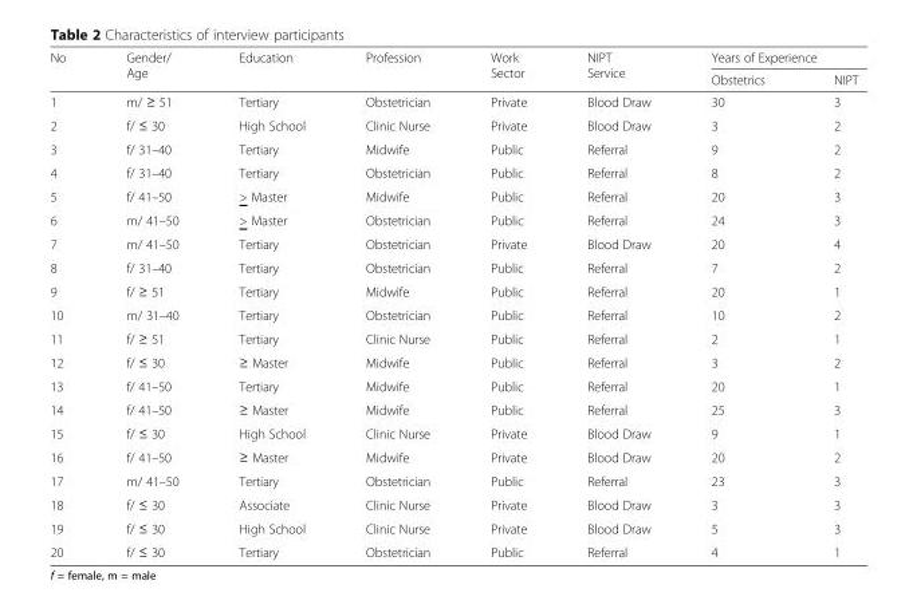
<table><thead><tr><td rowspan="2">No</td><td rowspan="2">Gender/ Age</td><td rowspan="2">Education</td><td rowspan="2">Profession</td><td rowspan="2">Work Sector</td><td rowspan="2">NIPT Service</td><td colspan="2">Years of Experience</td></tr><tr><td>Obstetrics</td><td>NIPT</td></tr></thead><tbody><tr><td>1</td><td>m/ ≥ 51</td><td>Tertiary</td><td>Obstetrician</td><td>Private</td><td>Blood Draw</td><td>30</td><td>3</td></tr><tr><td>2</td><td>f/ ≤ 30</td><td>High School</td><td>Clinic Nurse</td><td>Private</td><td>Blood Draw</td><td>3</td><td>2</td></tr><tr><td>3</td><td>f/ 31–40</td><td>Tertiary</td><td>Midwife</td><td>Public</td><td>Referral</td><td>9</td><td>2</td></tr><tr><td>4</td><td>f/ 31–40</td><td>Tertiary</td><td>Obstetrician</td><td>Public</td><td>Referral</td><td>8</td><td>2</td></tr><tr><td>5</td><td>f/ 41–50</td><td>&gt; Master</td><td>Midwife</td><td>Public</td><td>Referral</td><td>20</td><td>3</td></tr><tr><td>6</td><td>m/ 41–50</td><td>&gt; Master</td><td>Obstetrician</td><td>Public</td><td>Referral</td><td>24</td><td>3</td></tr><tr><td>7</td><td>m/ 41–50</td><td>Tertiary</td><td>Obstetrician</td><td>Private</td><td>Blood Draw</td><td>20</td><td>4</td></tr><tr><td>8</td><td>f/ 31–40</td><td>Tertiary</td><td>Obstetrician</td><td>Public</td><td>Referral</td><td>7</td><td>2</td></tr><tr><td>9</td><td>f/ ≥ 51</td><td>Tertiary</td><td>Midwife</td><td>Public</td><td>Referral</td><td>20</td><td>1</td></tr><tr><td>10</td><td>m/ 31–40</td><td>Tertiary</td><td>Obstetrician</td><td>Public</td><td>Referral</td><td>10</td><td>2</td></tr><tr><td>11</td><td>f/ ≥ 51</td><td>Tertiary</td><td>Clinic Nurse</td><td>Public</td><td>Referral</td><td>2</td><td>1</td></tr><tr><td>12</td><td>f/ ≤ 30</td><td>≥ Master</td><td>Midwife</td><td>Public</td><td>Referral</td><td>3</td><td>2</td></tr><tr><td>13</td><td>f/ 41–50</td><td>Tertiary</td><td>Midwife</td><td>Public</td><td>Referral</td><td>20</td><td>1</td></tr><tr><td>14</td><td>f/ 41–50</td><td>≥ Master</td><td>Midwife</td><td>Public</td><td>Referral</td><td>25</td><td>3</td></tr><tr><td>15</td><td>f/ ≤ 30</td><td>High School</td><td>Clinic Nurse</td><td>Private</td><td>Blood Draw</td><td>9</td><td>1</td></tr><tr><td>16</td><td>f/ 41–50</td><td>≥ Master</td><td>Midwife</td><td>Private</td><td>Blood Draw</td><td>20</td><td>2</td></tr><tr><td>17</td><td>m/ 41–50</td><td>Tertiary</td><td>Obstetrician</td><td>Public</td><td>Referral</td><td>23</td><td>3</td></tr><tr><td>18</td><td>f/ ≤ 30</td><td>Associate</td><td>Clinic Nurse</td><td>Private</td><td>Blood Draw</td><td>3</td><td>3</td></tr><tr><td>19</td><td>f/ ≤ 30</td><td>High School</td><td>Clinic Nurse</td><td>Private</td><td>Blood Draw</td><td>5</td><td>3</td></tr><tr><td>20</td><td>f/ ≤ 30</td><td>Tertiary</td><td>Obstetrician</td><td>Public</td><td>Referral</td><td>4</td><td>1</td></tr></tbody></table>